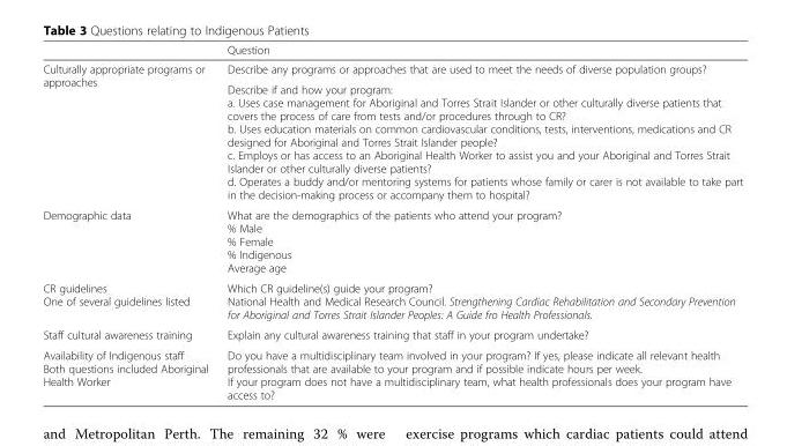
<table><thead><tr><td></td><td>Question</td></tr></thead><tbody><tr><td rowspan="2">Culturally appropriate programs or approaches</td><td>Describe any programs or approaches that are used to meet the needs of diverse population groups?</td></tr><tr><td>Describe if and how your program: a. Uses case management for Aboriginal and Torres Strait Islander or other culturally diverse patients that covers the process of care from tests and/or procedures through to CR? b. Uses education materials on common cardiovascular conditions, tests, interventions, medications and CR designed for Aboriginal and Torres Strait Islander people? c. Employs or has access to an Aboriginal Health Worker to assist you and your Aboriginal and Torres Strait Islander or other culturally diverse patients? d. Operates a buddy and/or mentoring systems for patients whose family or carer is not available to take part in the decision-making process or accompany them to hospital?</td></tr><tr><td>Demographic data</td><td>What are the demographics of the patients who attend your program? % Male % Female % Indigenous Average age</td></tr><tr><td>CR guidelines One of several guidelines listed</td><td>Which CR guideline(s) guide your program? National Health and Medical Research Council. Strengthening Cardiac Rehabilitation and Secondary Prevention for Aboriginal and Torres Strait Islander Peoples: A Guide fro Health Professionals.</td></tr><tr><td>Staff cultural awareness training</td><td>Explain any cultural awareness training that staff in your program undertake?</td></tr><tr><td>Availability of Indigenous staff Both questions included Aboriginal Health Worker</td><td>Do you have a multidisciplinary team involved in your program? If yes, please indicate all relevant health professionals that are available to your program and if possible indicate hours per week. If your program does not have a multidisciplinary team, what health professionals does your program have access to?</td></tr></tbody></table>